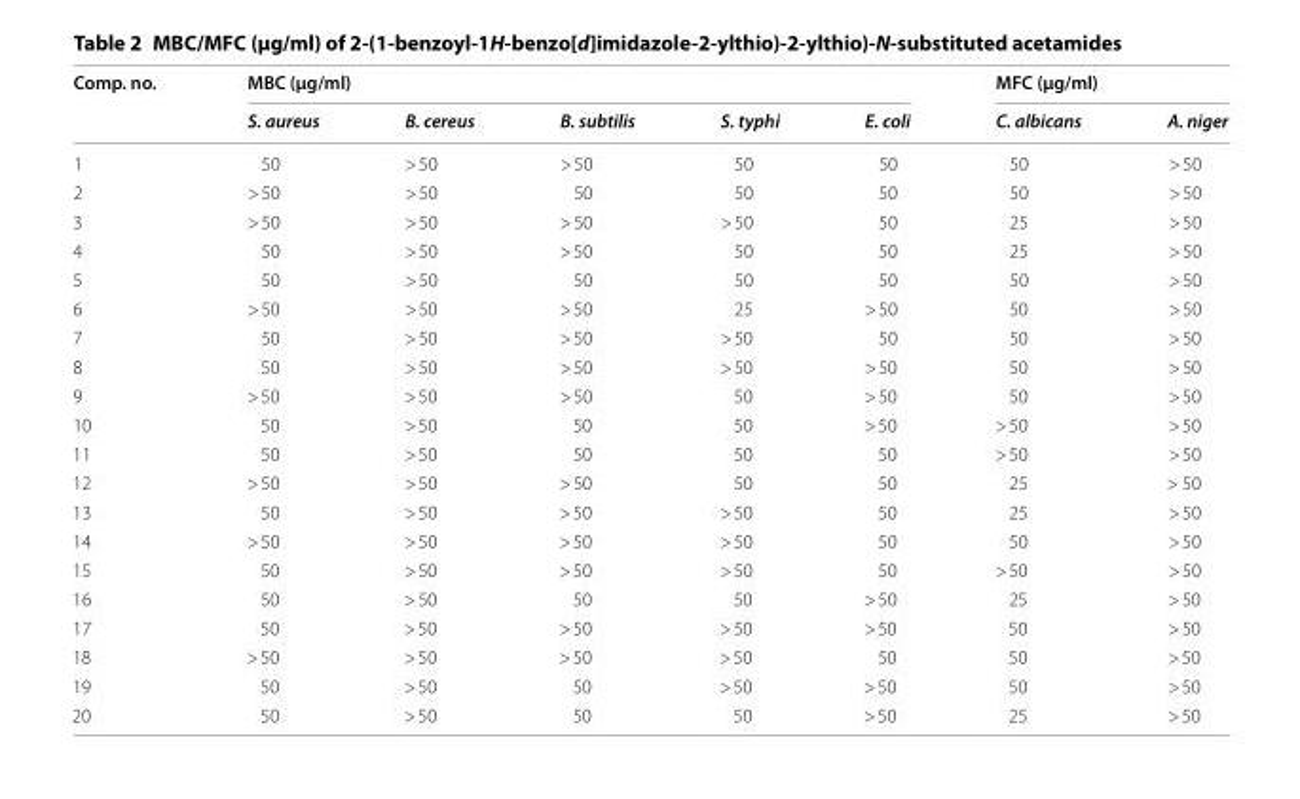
<table><thead><tr><td rowspan="2">Comp. no.</td><td colspan="5">MBC (µg/ml)</td><td colspan="2">MFC (µg/ml)</td></tr><tr><td>S. aureus</td><td>B. cereus</td><td>B. subtilis</td><td>S. typhi</td><td>E. coli</td><td>C. albicans</td><td>A. niger</td></tr></thead><tbody><tr><td>1</td><td>50</td><td>&gt; 50</td><td>&gt; 50</td><td>50</td><td>50</td><td>50</td><td>&gt; 50</td></tr><tr><td>2</td><td>&gt; 50</td><td>&gt; 50</td><td>50</td><td>50</td><td>50</td><td>50</td><td>&gt; 50</td></tr><tr><td>3</td><td>&gt; 50</td><td>&gt; 50</td><td>&gt; 50</td><td>&gt; 50</td><td>50</td><td>25</td><td>&gt; 50</td></tr><tr><td>4</td><td>50</td><td>&gt; 50</td><td>&gt; 50</td><td>50</td><td>50</td><td>25</td><td>&gt; 50</td></tr><tr><td>5</td><td>50</td><td>&gt; 50</td><td>50</td><td>50</td><td>50</td><td>50</td><td>&gt; 50</td></tr><tr><td>6</td><td>&gt; 50</td><td>&gt; 50</td><td>&gt; 50</td><td>25</td><td>&gt; 50</td><td>50</td><td>&gt; 50</td></tr><tr><td>7</td><td>50</td><td>&gt; 50</td><td>&gt; 50</td><td>&gt; 50</td><td>50</td><td>50</td><td>&gt; 50</td></tr><tr><td>8</td><td>50</td><td>&gt; 50</td><td>&gt; 50</td><td>&gt; 50</td><td>&gt; 50</td><td>50</td><td>&gt; 50</td></tr><tr><td>9</td><td>&gt; 50</td><td>&gt; 50</td><td>&gt; 50</td><td>50</td><td>&gt; 50</td><td>50</td><td>&gt; 50</td></tr><tr><td>10</td><td>50</td><td>&gt; 50</td><td>50</td><td>50</td><td>&gt; 50</td><td>&gt; 50</td><td>&gt; 50</td></tr><tr><td>11</td><td>50</td><td>&gt; 50</td><td>50</td><td>50</td><td>50</td><td>&gt; 50</td><td>&gt; 50</td></tr><tr><td>12</td><td>&gt; 50</td><td>&gt; 50</td><td>&gt; 50</td><td>50</td><td>50</td><td>25</td><td>&gt; 50</td></tr><tr><td>13</td><td>50</td><td>&gt; 50</td><td>&gt; 50</td><td>&gt; 50</td><td>50</td><td>25</td><td>&gt; 50</td></tr><tr><td>14</td><td>&gt; 50</td><td>&gt; 50</td><td>&gt; 50</td><td>&gt; 50</td><td>50</td><td>50</td><td>&gt; 50</td></tr><tr><td>15</td><td>50</td><td>&gt; 50</td><td>&gt; 50</td><td>&gt; 50</td><td>50</td><td>&gt; 50</td><td>&gt; 50</td></tr><tr><td>16</td><td>50</td><td>&gt; 50</td><td>50</td><td>50</td><td>&gt; 50</td><td>25</td><td>&gt; 50</td></tr><tr><td>17</td><td>50</td><td>&gt; 50</td><td>&gt; 50</td><td>&gt; 50</td><td>&gt; 50</td><td>50</td><td>&gt; 50</td></tr><tr><td>18</td><td>&gt; 50</td><td>&gt; 50</td><td>&gt; 50</td><td>&gt; 50</td><td>50</td><td>50</td><td>&gt; 50</td></tr><tr><td>19</td><td>50</td><td>&gt; 50</td><td>50</td><td>&gt; 50</td><td>&gt; 50</td><td>50</td><td>&gt; 50</td></tr><tr><td>20</td><td>50</td><td>&gt; 50</td><td>50</td><td>50</td><td>&gt; 50</td><td>25</td><td>&gt; 50</td></tr></tbody></table>